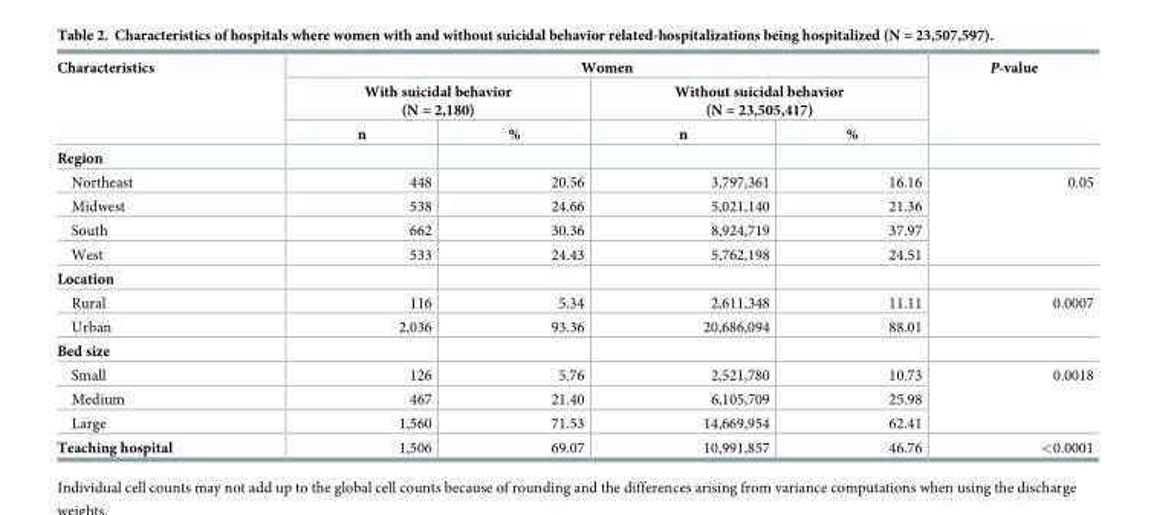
<table><thead><tr><td rowspan="3">Characteristics</td><td colspan="4">Women</td><td rowspan="3">P-value</td></tr><tr><td colspan="2">With suicidal behavior (N = 2,180)</td><td colspan="2">Without suicidal behavior (N = 23,505,417)</td></tr><tr><td>n</td><td>%</td><td>n</td><td>%</td></tr></thead><tbody><tr><td colspan="6">Region</td></tr><tr><td>Northeast</td><td>448</td><td>20.56</td><td>3,797,361</td><td>16.16</td><td rowspan="4">0.05</td></tr><tr><td>Midwest</td><td>538</td><td>24.66</td><td>5,021,140</td><td>21.36</td></tr><tr><td>South</td><td>662</td><td>30.36</td><td>8,924,719</td><td>37.97</td></tr><tr><td>West</td><td>533</td><td>24.43</td><td>5,762,198</td><td>24.51</td></tr><tr><td colspan="6">Location</td></tr><tr><td>Rural</td><td>116</td><td>5.34</td><td>2,611,348</td><td>11.11</td><td rowspan="2">0.0007</td></tr><tr><td>Urban</td><td>2,036</td><td>93.36</td><td>20,686,094</td><td>88.01</td></tr><tr><td colspan="6">Bed size</td></tr><tr><td>Small</td><td>126</td><td>5.76</td><td>2,521,780</td><td>10.73</td><td rowspan="3">0.0018</td></tr><tr><td>Medium</td><td>467</td><td>21.40</td><td>6,105,709</td><td>25.98</td></tr><tr><td>Large</td><td>1,560</td><td>71.53</td><td>14,669,954</td><td>62.41</td></tr><tr><td>Teaching hospital</td><td>1,506</td><td>69.07</td><td>10,991,857</td><td>46.76</td><td>&lt;0.0001</td></tr></tbody></table>